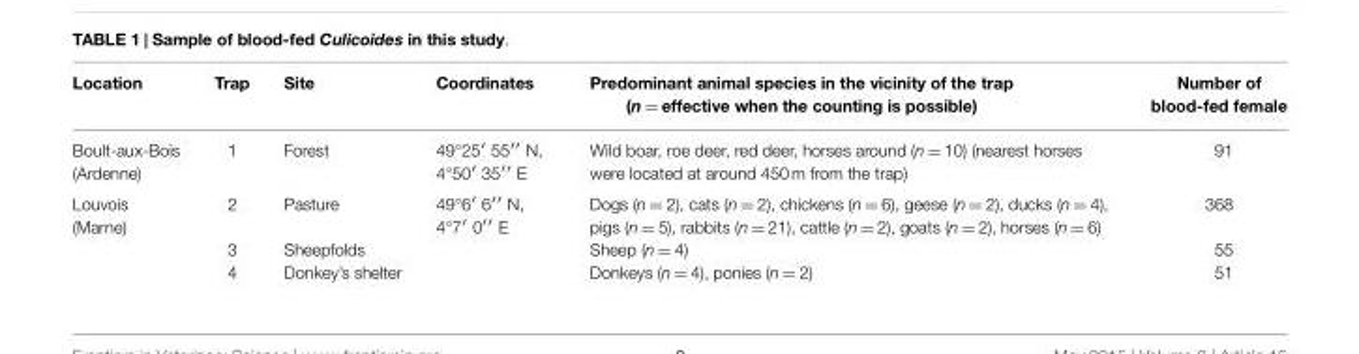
<table><thead><tr><td>Location</td><td>Trap</td><td>Site</td><td>Coordinates</td><td>Predominant animal species in the vicinity of the trap (n = effective when the counting is possible)</td><td>Number of blood-fed female</td></tr></thead><tbody><tr><td>Boult-aux-Bois (Ardenne)</td><td>1</td><td>Forest</td><td>49°25′ 55′′ N, 4°50′ 35′′ E</td><td>Wild boar, roe deer, red deer, horses around (n = 10) (nearest horses were located at around 450 m from the trap)</td><td>91</td></tr><tr><td rowspan="3">Louvois (Marne)</td><td>2</td><td>Pasture</td><td>49°6′ 6′′ N, 4°7′ 0′′ E</td><td>Dogs (n = 2), cats (n = 2), chickens (n = 6), geese (n = 2), ducks (n = 4), pigs (n = 5), rabbits (n = 21), cattle (n = 2), goats (n = 2), horses (n = 6)</td><td>368</td></tr><tr><td>3</td><td>Sheepfolds</td><td></td><td>Sheep (n = 4)</td><td>55</td></tr><tr><td>4</td><td>Donkey’s shelter</td><td></td><td>Donkeys (n = 4), ponies (n = 2)</td><td>51</td></tr></tbody></table>